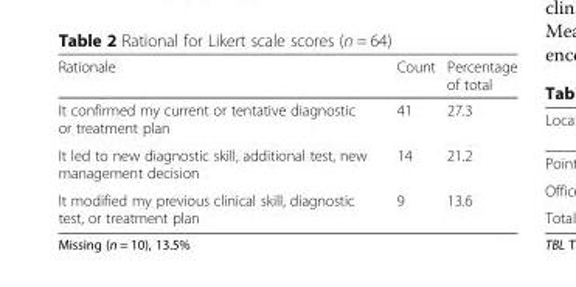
<table><thead><tr><td>Rationale</td><td>Count</td><td>Percentage of total</td></tr></thead><tbody><tr><td>It confirmed my current or tentative diagnostic or treatment plan</td><td>41</td><td>27.3</td></tr><tr><td>It led to new diagnostic skill, additional test, new management decision</td><td>14</td><td>21.2</td></tr><tr><td>It modified my previous clinical skill, diagnostic test, or treatment plan</td><td>9</td><td>13.6</td></tr></tbody></table>